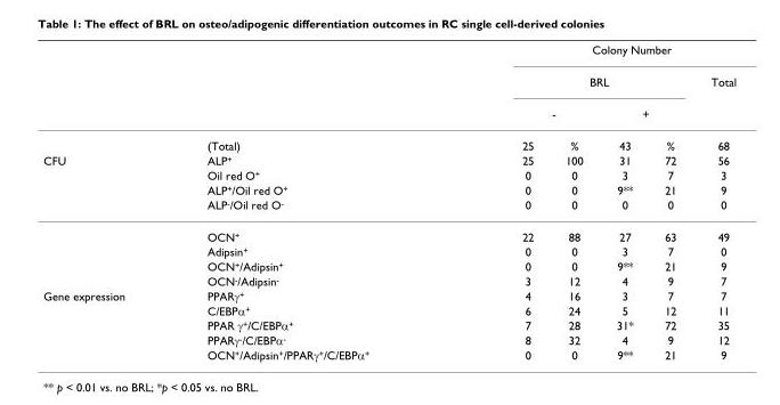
<table><thead><tr><td rowspan="4"></td><td rowspan="4">(Total)</td><td colspan="5">Colony Number</td></tr><tr><td colspan="4">BRL</td><td rowspan="3">Total 68</td></tr><tr><td colspan="2">-</td><td colspan="2">+</td></tr><tr><td>25</td><td>%</td><td>43</td><td>%</td></tr></thead><tbody><tr><td rowspan="8">CFU</td><td>ALP<sup>+</sup></td><td>25</td><td>100</td><td>31</td><td>72</td><td>56</td></tr><tr><td>Oil red O<sup>+</sup></td><td>0</td><td>0</td><td>3</td><td>7</td><td>3</td></tr><tr><td>ALP<sup>+</sup>/Oil red O<sup>+</sup></td><td>0</td><td>0</td><td>9**</td><td>21</td><td>9</td></tr><tr><td>ALP<sup>-</sup>/Oil red O<sup>-</sup></td><td>0</td><td>0</td><td>0</td><td>0</td><td>0</td></tr><tr><td>OCN<sup>+</sup></td><td>22</td><td>88</td><td>27</td><td>63</td><td>49</td></tr><tr><td>Adipsin<sup>+</sup></td><td>0</td><td>0</td><td>3</td><td>7</td><td>0</td></tr><tr><td>OCN<sup>+</sup>/Adipsin<sup>+</sup></td><td>0</td><td>0</td><td>9**</td><td>21</td><td>9</td></tr><tr><td>OCN<sup>-</sup>/Adipsin<sup>-</sup></td><td>3</td><td>12</td><td>4</td><td>9</td><td>7</td></tr><tr><td rowspan="5">Gene expression</td><td>PPARγ<sup>+</sup></td><td>4</td><td>16</td><td>3</td><td>7</td><td>7</td></tr><tr><td>C/EBPα<sup>+</sup></td><td>6</td><td>24</td><td>5</td><td>12</td><td>11</td></tr><tr><td>PPAR γ<sup>+</sup>/C/EBPα<sup>+</sup></td><td>7</td><td>28</td><td>31*</td><td>72</td><td>35</td></tr><tr><td>PPARγ<sup>-</sup>/C/EBPα<sup>-</sup></td><td>8</td><td>32</td><td>4</td><td>9</td><td>12</td></tr><tr><td>OCN<sup>+</sup>/Adipsin<sup>+</sup>/PPARγ<sup>+</sup>/C/EBPα<sup>+</sup></td><td>0</td><td>0</td><td>9**</td><td>21</td><td>9</td></tr></tbody></table>